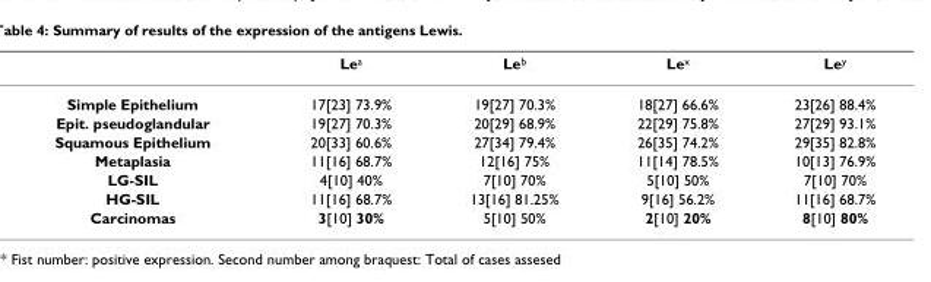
<table><thead><tr><td></td><td>Le<sup>a</sup></td><td>Le<sup>b</sup></td><td>Le<sup>x</sup></td><td>Le<sup>y</sup></td></tr></thead><tbody><tr><td>Simple Epithelium</td><td>17[23] 73.9%</td><td>19[27] 70.3%</td><td>18[27] 66.6%</td><td>23[26] 88.4%</td></tr><tr><td>Epit. pseudoglandular</td><td>19[27] 70.3%</td><td>20[29] 68.9%</td><td>22[29] 75.8%</td><td>27[29] 93.1%</td></tr><tr><td>Squamous Epithelium</td><td>20[33] 60.6%</td><td>27[34] 79.4%</td><td>26[35] 74.2%</td><td>29[35] 82.8%</td></tr><tr><td>Metaplasia</td><td>11[16] 68.7%</td><td>12[16] 75%</td><td>11[14] 78.5%</td><td>10[13] 76.9%</td></tr><tr><td>LG-SIL</td><td>4[10] 40%</td><td>7[10] 70%</td><td>5[10] 50%</td><td>7[10] 70%</td></tr><tr><td>HG-SIL</td><td>11[16] 68.7%</td><td>13[16] 81.25%</td><td>9[16] 56.2%</td><td>11[16] 68.7%</td></tr><tr><td>Carcinomas</td><td>3[10] 30%</td><td>5[10] 50%</td><td>2[10] 20%</td><td>8[10] 80%</td></tr></tbody></table>